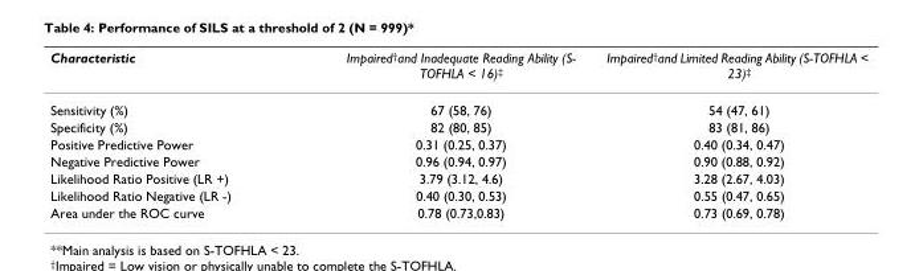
<table><thead><tr><td>Characteristic</td><td>Impaired<sup>†</sup>and Inadequate Reading Ability (S- TOFHLA &lt; 16)<sup>‡</sup></td><td>Impaired<sup>†</sup>and Limited Reading Ability (S-TOFHLA &lt; 23)<sup>‡</sup></td></tr></thead><tbody><tr><td>Sensitivity (%)</td><td>67 (58, 76)</td><td>54 (47, 61)</td></tr><tr><td>Specificity (%)</td><td>82 (80, 85)</td><td>83 (81, 86)</td></tr><tr><td>Positive Predictive Power</td><td>0.31 (0.25, 0.37)</td><td>0.40 (0.34, 0.47)</td></tr><tr><td>Negative Predictive Power</td><td>0.96 (0.94, 0.97)</td><td>0.90 (0.88, 0.92)</td></tr><tr><td>Likelihood Ratio Positive (LR +)</td><td>3.79 (3.12, 4.6)</td><td>3.28 (2.67, 4.03)</td></tr><tr><td>Likelihood Ratio Negative (LR -)</td><td>0.40 (0.30, 0.53)</td><td>0.55 (0.47, 0.65)</td></tr><tr><td>Area under the ROC curve</td><td>0.78 (0.73,0.83)</td><td>0.73 (0.69, 0.78)</td></tr></tbody></table>